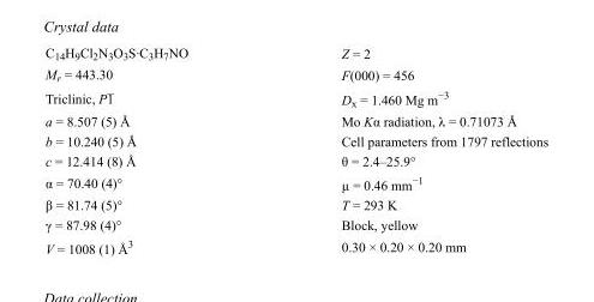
<table><tbody><tr><td>C<sub>14</sub>H<sub>9</sub>Cl<sub>2</sub>N<sub>3</sub>O<sub>3</sub>S·C<sub>3</sub>H<sub>7</sub>NO</td><td>Z = 2</td></tr><tr><td>M<sub>r</sub> = 443.30</td><td>F(000) = 456</td></tr><tr><td>Triclinic, P1</td><td>D<sub>x</sub> = 1.460 Mg m<sup>−3</sup></td></tr><tr><td>a = 8.507 (5) Å</td><td>Mo Kα radiation, λ = 0.71073 Å</td></tr><tr><td>b = 10.240 (5) Å</td><td>Cell parameters from 1797 reflections</td></tr><tr><td>c = 12.414 (8) Å</td><td>θ = 2.4–25.9°</td></tr><tr><td>α = 70.40 (4)°</td><td>µ = 0.46 mm<sup>−1</sup></td></tr><tr><td>β = 81.74 (5)°</td><td>T = 293 K</td></tr><tr><td>γ = 87.98 (4)°</td><td>Block, yellow</td></tr><tr><td>V = 1008 (1) Å<sup>3</sup></td><td>0.30 × 0.20 × 0.20 mm</td></tr></tbody></table>